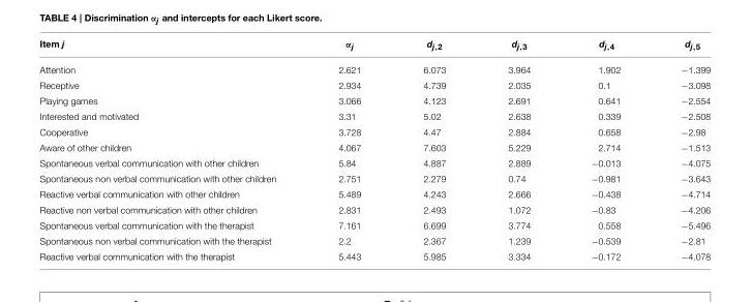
<table><thead><tr><td>Item j</td><td>α<sub>j</sub></td><td>d<sub>j,2</sub></td><td>d<sub>j,3</sub></td><td>d<sub>j,4</sub></td><td>d<sub>j,5</sub></td></tr></thead><tbody><tr><td>Attention</td><td>2.621</td><td>6.073</td><td>3.964</td><td>1.902</td><td>−1.399</td></tr><tr><td>Receptive</td><td>2.934</td><td>4.739</td><td>2.035</td><td>0.1</td><td>−3.098</td></tr><tr><td>Playing games</td><td>3.066</td><td>4.123</td><td>2.691</td><td>0.641</td><td>−2.554</td></tr><tr><td>Interested and motivated</td><td>3.31</td><td>5.02</td><td>2.638</td><td>0.339</td><td>−2.508</td></tr><tr><td>Cooperative</td><td>3.728</td><td>4.47</td><td>2.884</td><td>0.658</td><td>−2.98</td></tr><tr><td>Aware of other children</td><td>4.067</td><td>7.603</td><td>5.229</td><td>2.714</td><td>−1.513</td></tr><tr><td>Spontaneous verbal communication with other children</td><td>5.84</td><td>4.887</td><td>2.889</td><td>−0.013</td><td>−4.075</td></tr><tr><td>Spontaneous non verbal communication with other children</td><td>2.751</td><td>2.279</td><td>0.74</td><td>−0.981</td><td>−3.643</td></tr><tr><td>Reactive verbal communication with other children</td><td>5.489</td><td>4.243</td><td>2.666</td><td>−0.438</td><td>−4.714</td></tr><tr><td>Reactive non verbal communication with other children</td><td>2.831</td><td>2.493</td><td>1.072</td><td>−0.83</td><td>−4.206</td></tr><tr><td>Spontaneous verbal communication with the therapist</td><td>7.161</td><td>6.699</td><td>3.774</td><td>0.558</td><td>−5.496</td></tr><tr><td>Spontaneous non verbal communication with the therapist</td><td>2.2</td><td>2.367</td><td>1.239</td><td>−0.539</td><td>−2.81</td></tr><tr><td>Reactive verbal communication with the therapist</td><td>5.443</td><td>5.985</td><td>3.334</td><td>−0.172</td><td>−4.078</td></tr></tbody></table>